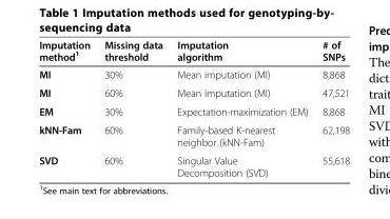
<table><thead><tr><td>Imputation method<sup>1</sup></td><td>Missing data threshold</td><td>Imputation algorithm</td><td># of SNPs</td></tr></thead><tbody><tr><td>MI</td><td>30%</td><td>Mean imputation (MI)</td><td>8,868</td></tr><tr><td>MI</td><td>60%</td><td>Mean imputation (MI)</td><td>47,521</td></tr><tr><td>EM</td><td>30%</td><td>Expectation-maximization (EM)</td><td>8,868</td></tr><tr><td>kNN-Fam</td><td>60%</td><td>Family-based K-nearest neighbor (kNN-Fam)</td><td>62,198</td></tr><tr><td>SVD</td><td>60%</td><td>Singular Value Decomposition (SVD)</td><td>55,618</td></tr></tbody></table>